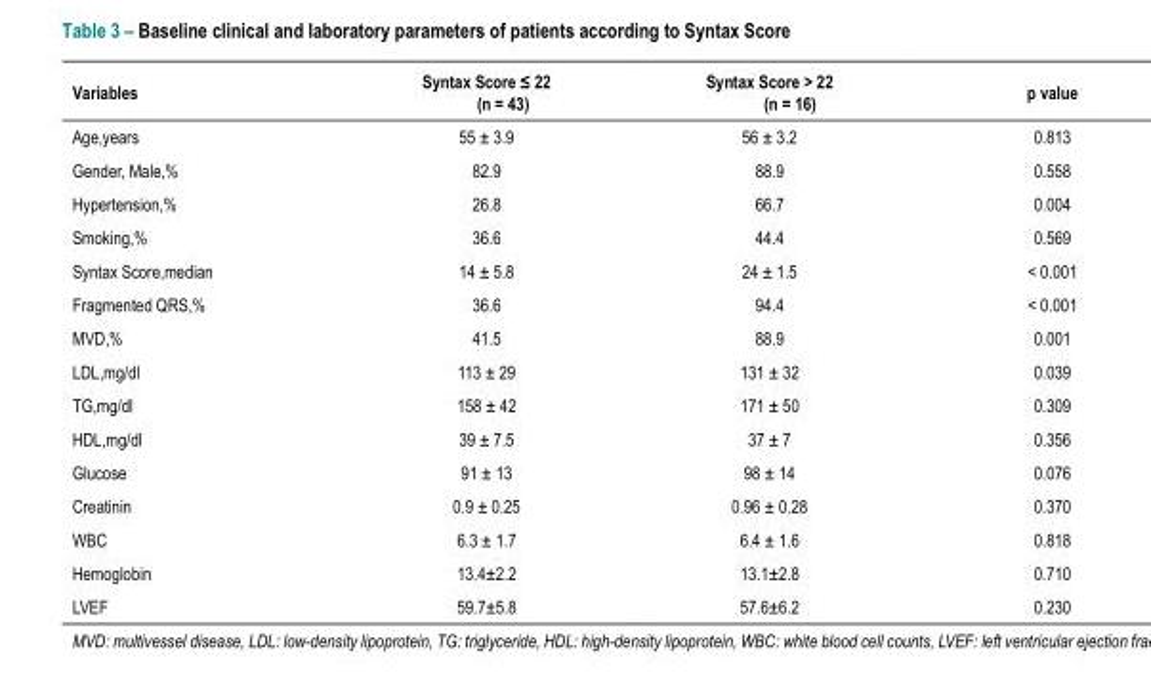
<table><thead><tr><td>Variables</td><td>Syntax Score ≤ 22 (n = 43)</td><td>Syntax Score &gt; 22 (n = 16)</td><td>p value</td></tr></thead><tbody><tr><td>Age,years</td><td>55 ± 3.9</td><td>56 ± 3.2</td><td>0.813</td></tr><tr><td>Gender, Male,%</td><td>82.9</td><td>88.9</td><td>0.558</td></tr><tr><td>Hypertension,%</td><td>26.8</td><td>66.7</td><td>0.004</td></tr><tr><td>Smoking,%</td><td>36.6</td><td>44.4</td><td>0.569</td></tr><tr><td>Syntax Score,median</td><td>14 ± 5.8</td><td>24 ± 1.5</td><td>&lt; 0.001</td></tr><tr><td>Fragmented QRS,%</td><td>36.6</td><td>94.4</td><td>&lt; 0.001</td></tr><tr><td>MVD,%</td><td>41.5</td><td>88.9</td><td>0.001</td></tr><tr><td>LDL,mg/dl</td><td>113 ± 29</td><td>131 ± 32</td><td>0.039</td></tr><tr><td>TG,mg/dl</td><td>158 ± 42</td><td>171 ± 50</td><td>0.309</td></tr><tr><td>HDL,mg/dl</td><td>39 ± 7.5</td><td>37 ± 7</td><td>0.356</td></tr><tr><td>Glucose</td><td>91 ± 13</td><td>98 ± 14</td><td>0.076</td></tr><tr><td>Creatinin</td><td>0.9 ± 0.25</td><td>0.96 ± 0.28</td><td>0.370</td></tr><tr><td>WBC</td><td>6.3 ± 1.7</td><td>6.4 ± 1.6</td><td>0.818</td></tr><tr><td>Hemoglobin</td><td>13.4±2.2</td><td>13.1±2.8</td><td>0.710</td></tr><tr><td>LVEF</td><td>59.7±5.8</td><td>57.6±6.2</td><td>0.230</td></tr></tbody></table>